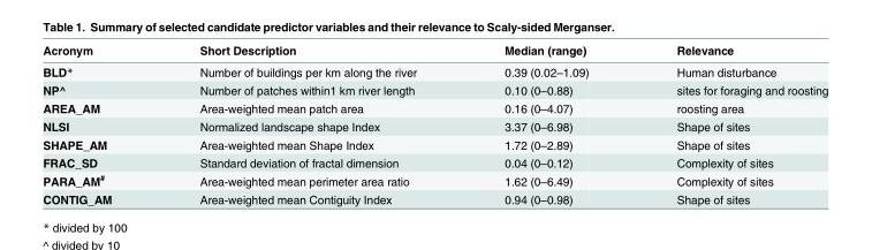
<table><thead><tr><td>Acronym</td><td>Short Description</td><td>Median (range)</td><td>Relevance</td></tr></thead><tbody><tr><td>BLD*</td><td>Number of buildings per km along the river</td><td>0.39 (0.02–1.09)</td><td>Human disturbance</td></tr><tr><td>NP^</td><td>Number of patches within1 km river length</td><td>0.10 (0–0.88)</td><td>sites for foraging and roosting</td></tr><tr><td>AREA_AM</td><td>Area-weighted mean patch area</td><td>0.16 (0–4.07)</td><td>roosting area</td></tr><tr><td>NLSI</td><td>Normalized landscape shape Index</td><td>3.37 (0–6.98)</td><td>Shape of sites</td></tr><tr><td>SHAPE_AM</td><td>Area-weighted mean Shape Index</td><td>1.72 (0–2.89)</td><td>Shape of sites</td></tr><tr><td>FRAC_SD</td><td>Standard deviation of fractal dimension</td><td>0.04 (0–0.12)</td><td>Complexity of sites</td></tr><tr><td>PARA_AM<sup>#</sup></td><td>Area-weighted mean perimeter area ratio</td><td>1.62 (0–6.49)</td><td>Complexity of sites</td></tr><tr><td>CONTIG_AM</td><td>Area-weighted mean Contiguity Index</td><td>0.94 (0–0.98)</td><td>Shape of sites</td></tr></tbody></table>